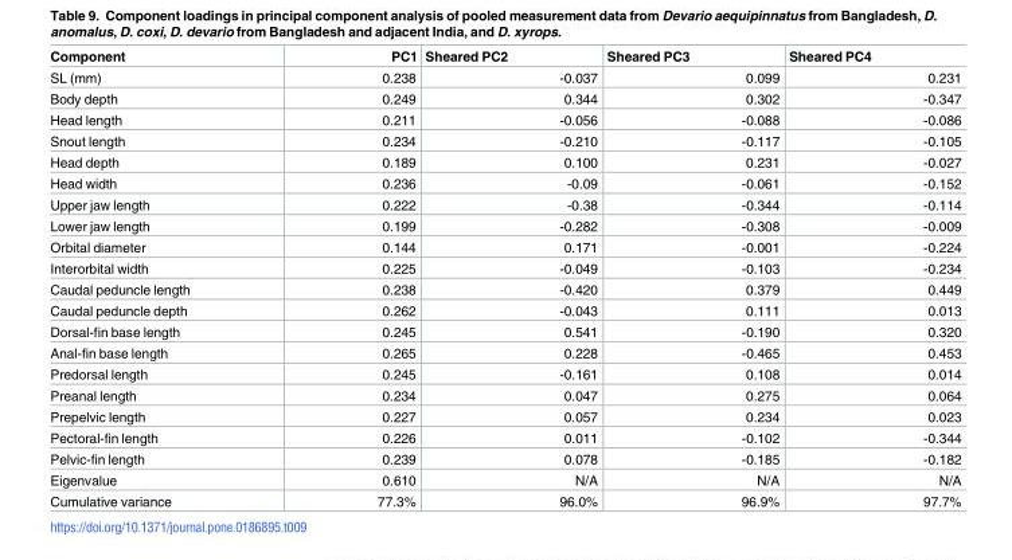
<table><thead><tr><td>Component</td><td>PC1</td><td>Sheared PC2</td><td>Sheared PC3</td><td>Sheared PC4</td></tr></thead><tbody><tr><td>SL (mm)</td><td>0.238</td><td>-0.037</td><td>0.099</td><td>0.231</td></tr><tr><td>Body depth</td><td>0.249</td><td>0.344</td><td>0.302</td><td>-0.347</td></tr><tr><td>Head length</td><td>0.211</td><td>-0.056</td><td>-0.088</td><td>-0.086</td></tr><tr><td>Snout length</td><td>0.234</td><td>-0.210</td><td>-0.117</td><td>-0.105</td></tr><tr><td>Head depth</td><td>0.189</td><td>0.100</td><td>0.231</td><td>-0.027</td></tr><tr><td>Head width</td><td>0.236</td><td>-0.09</td><td>-0.061</td><td>-0.152</td></tr><tr><td>Upper jaw length</td><td>0.222</td><td>-0.38</td><td>-0.344</td><td>-0.114</td></tr><tr><td>Lower jaw length</td><td>0.199</td><td>-0.282</td><td>-0.308</td><td>-0.009</td></tr><tr><td>Orbital diameter</td><td>0.144</td><td>0.171</td><td>-0.001</td><td>-0.224</td></tr><tr><td>Interorbital width</td><td>0.225</td><td>-0.049</td><td>-0.103</td><td>-0.234</td></tr><tr><td>Caudal peduncle length</td><td>0.238</td><td>-0.420</td><td>0.379</td><td>0.449</td></tr><tr><td>Caudal peduncle depth</td><td>0.262</td><td>-0.043</td><td>0.111</td><td>0.013</td></tr><tr><td>Dorsal-fin base length</td><td>0.245</td><td>0.541</td><td>-0.190</td><td>0.320</td></tr><tr><td>Anal-fin base length</td><td>0.265</td><td>0.228</td><td>-0.465</td><td>0.453</td></tr><tr><td>Predorsal length</td><td>0.245</td><td>-0.161</td><td>0.108</td><td>0.014</td></tr><tr><td>Preanal length</td><td>0.234</td><td>0.047</td><td>0.275</td><td>0.064</td></tr><tr><td>Prepelvic length</td><td>0.227</td><td>0.057</td><td>0.234</td><td>0.023</td></tr><tr><td>Pectoral-fin length</td><td>0.226</td><td>0.011</td><td>-0.102</td><td>-0.344</td></tr><tr><td>Pelvic-fin length</td><td>0.239</td><td>0.078</td><td>-0.185</td><td>-0.182</td></tr><tr><td>Eigenvalue</td><td>0.610</td><td>N/A</td><td>N/A</td><td>N/A</td></tr><tr><td>Cumulative variance</td><td>77.3%</td><td>96.0%</td><td>96.9%</td><td>97.7%</td></tr></tbody></table>